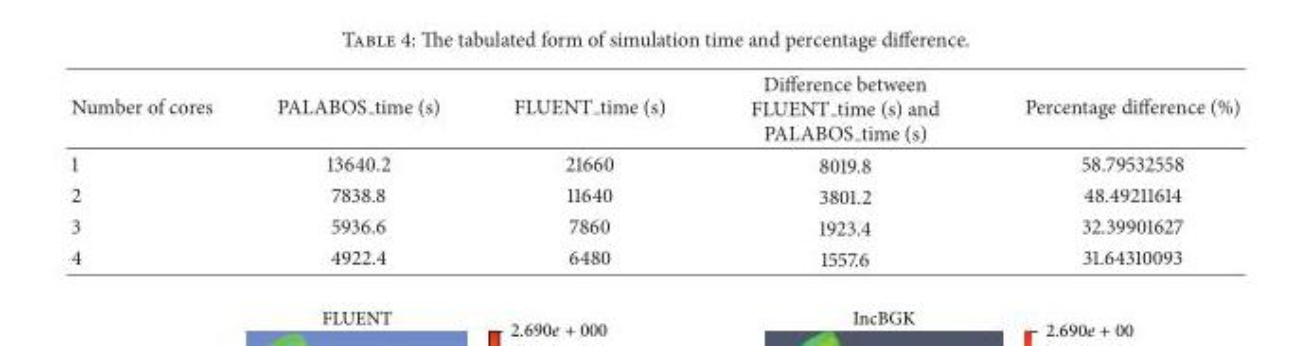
<table><thead><tr><td>Number of cores</td><td>PALABOS time (s)</td><td>FLUENT time (s)</td><td>Difference between FLUENT <sub>time (s) and PALABOS</sub> time (s)</td><td>Percentage difference (%)</td></tr></thead><tbody><tr><td>1</td><td>13640.2</td><td>21660</td><td>8019.8</td><td>58.79532558</td></tr><tr><td>2</td><td>7838.8</td><td>11640</td><td>3801.2</td><td>48.49211614</td></tr><tr><td>3</td><td>5936.6</td><td>7860</td><td>1923.4</td><td>32.39901627</td></tr><tr><td>4</td><td>4922.4</td><td>6480</td><td>1557.6</td><td>31.64310093</td></tr></tbody></table>